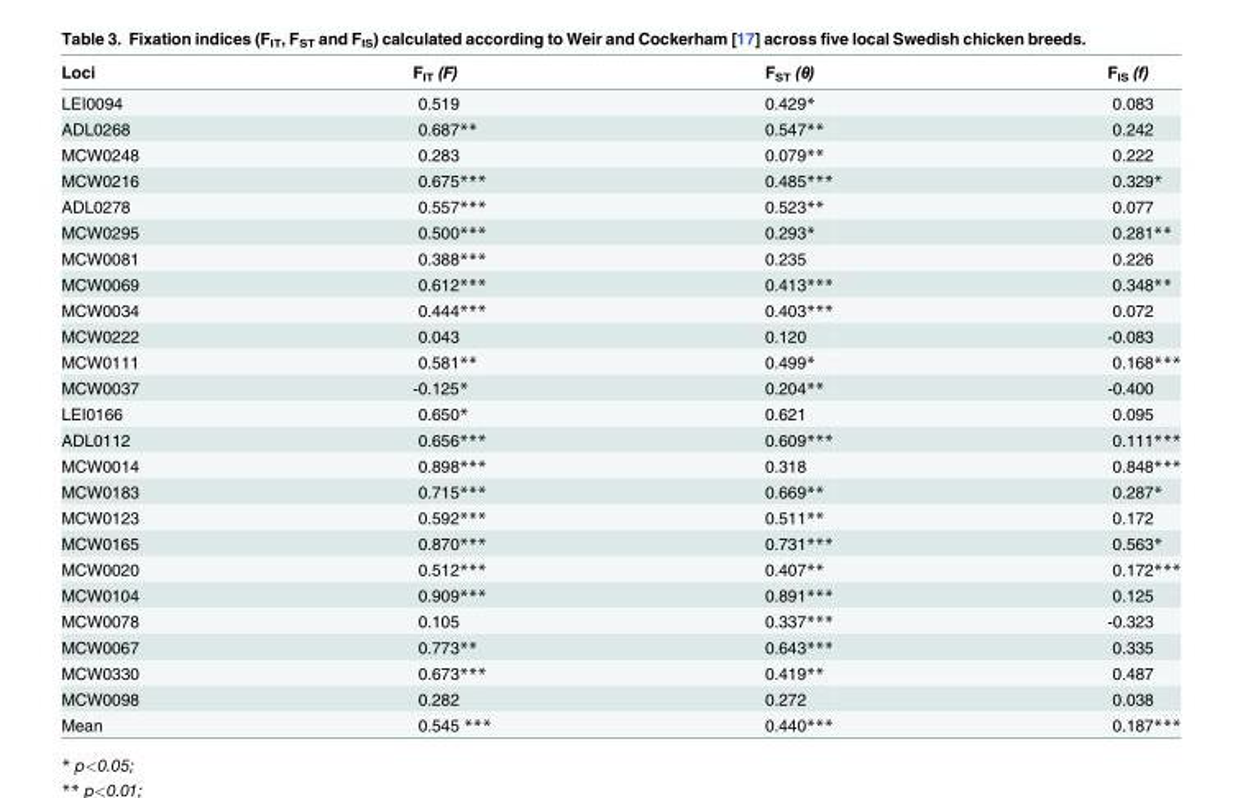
<table><thead><tr><td>Loci</td><td>F<sub>IT</sub> (F)</td><td>F<sub>ST</sub> (θ)</td><td>F<sub>IS</sub> (f)</td></tr></thead><tbody><tr><td>LEI0094</td><td>0.519</td><td>0.429*</td><td>0.083</td></tr><tr><td>ADL0268</td><td>0.687**</td><td>0.547**</td><td>0.242</td></tr><tr><td>MCW0248</td><td>0.283</td><td>0.079**</td><td>0.222</td></tr><tr><td>MCW0216</td><td>0.675***</td><td>0.485***</td><td>0.329*</td></tr><tr><td>ADL0278</td><td>0.557***</td><td>0.523**</td><td>0.077</td></tr><tr><td>MCW0295</td><td>0.500***</td><td>0.293*</td><td>0.281**</td></tr><tr><td>MCW0081</td><td>0.388***</td><td>0.235</td><td>0.226</td></tr><tr><td>MCW0069</td><td>0.612***</td><td>0.413***</td><td>0.348**</td></tr><tr><td>MCW0034</td><td>0.444***</td><td>0.403***</td><td>0.072</td></tr><tr><td>MCW0222</td><td>0.043</td><td>0.120</td><td>-0.083</td></tr><tr><td>MCW0111</td><td>0.581**</td><td>0.499*</td><td>0.168***</td></tr><tr><td>MCW0037</td><td>-0.125*</td><td>0.204**</td><td>-0.400</td></tr><tr><td>LEI0166</td><td>0.650*</td><td>0.621</td><td>0.095</td></tr><tr><td>ADL0112</td><td>0.656***</td><td>0.609***</td><td>0.111***</td></tr><tr><td>MCW0014</td><td>0.898***</td><td>0.318</td><td>0.848***</td></tr><tr><td>MCW0183</td><td>0.715***</td><td>0.669**</td><td>0.287*</td></tr><tr><td>MCW0123</td><td>0.592***</td><td>0.511**</td><td>0.172</td></tr><tr><td>MCW0165</td><td>0.870***</td><td>0.731***</td><td>0.563*</td></tr><tr><td>MCW0020</td><td>0.512***</td><td>0.407**</td><td>0.172***</td></tr><tr><td>MCW0104</td><td>0.909***</td><td>0.891***</td><td>0.125</td></tr><tr><td>MCW0078</td><td>0.105</td><td>0.337***</td><td>-0.323</td></tr><tr><td>MCW0067</td><td>0.773**</td><td>0.643***</td><td>0.335</td></tr><tr><td>MCW0330</td><td>0.673***</td><td>0.419**</td><td>0.487</td></tr><tr><td>MCW0098</td><td>0.282</td><td>0.272</td><td>0.038</td></tr><tr><td>Mean</td><td>0.545 ***</td><td>0.440***</td><td>0.187***</td></tr></tbody></table>